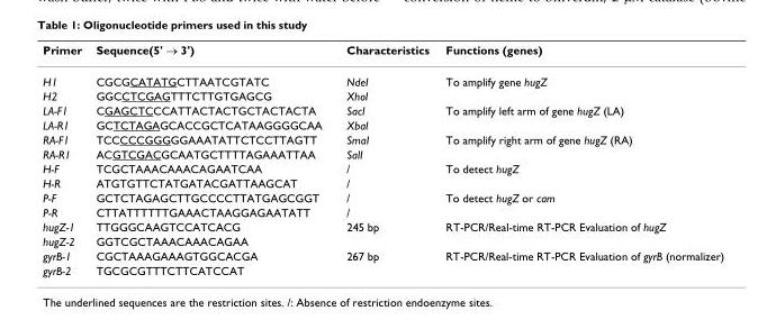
<table><thead><tr><td>Primer</td><td>Sequence(5&#x27; → 3&#x27;)</td><td>Characteristics</td><td>Functions (genes)</td></tr></thead><tbody><tr><td>H1</td><td>CGCGCATATGCTTAATCGTATC</td><td>NdeI</td><td>To amplify gene hugZ</td></tr><tr><td>H2</td><td>GGCCTCGAGTTTCTTGTGAGCG</td><td>XhoI</td><td></td></tr><tr><td>LA-F1</td><td>CGAGCTCCCATTACTACTGCTACTACTA</td><td>SacI</td><td>To amplify left arm of gene hugZ (LA)</td></tr><tr><td>LA-R1</td><td>GCTCTAGAGCACCGCTCATAAGGGGCAA</td><td>XbaI</td><td></td></tr><tr><td>RA-F1</td><td>TCCCCCGGGGGAAATATTCTCCTTAGTT</td><td>SmaI</td><td>To amplify right arm of gene hugZ (RA)</td></tr><tr><td>RA-R1</td><td>ACGTCGACGCAATGCTTTTAGAAATTAA</td><td>SalI</td><td></td></tr><tr><td>H-F</td><td>TCGCTAAACAAACAGAATCAA</td><td>/</td><td>To detect hugZ</td></tr><tr><td>H-R</td><td>ATGTGTTCTATGATACGATTAAGCAT</td><td>/</td><td></td></tr><tr><td>P-F</td><td>GCTCTAGAGCTTGCCCCTTATGAGCGGT</td><td>/</td><td>To detect hugZ or cam</td></tr><tr><td>P-R</td><td>CTTATTTTTTGAAACTAAGGAGAATATT</td><td>/</td><td></td></tr><tr><td>hugZ-1</td><td>TTGGGCAAGTCCATCACG</td><td>245 bp</td><td>RT-PCR/Real-time RT-PCR Evaluation of hugZ</td></tr><tr><td>hugZ-2</td><td>GGTCGCTAAACAAACAGAA</td><td></td><td></td></tr><tr><td>gyrB-1</td><td>CGCTAAAGAAAGTGGCACGA</td><td>267 bp</td><td>RT-PCR/Real-time RT-PCR Evaluation of gyrB (normalizer)</td></tr><tr><td>gyrB-2</td><td>TGCGCGTTTCTTCATCCAT</td><td></td><td></td></tr></tbody></table>